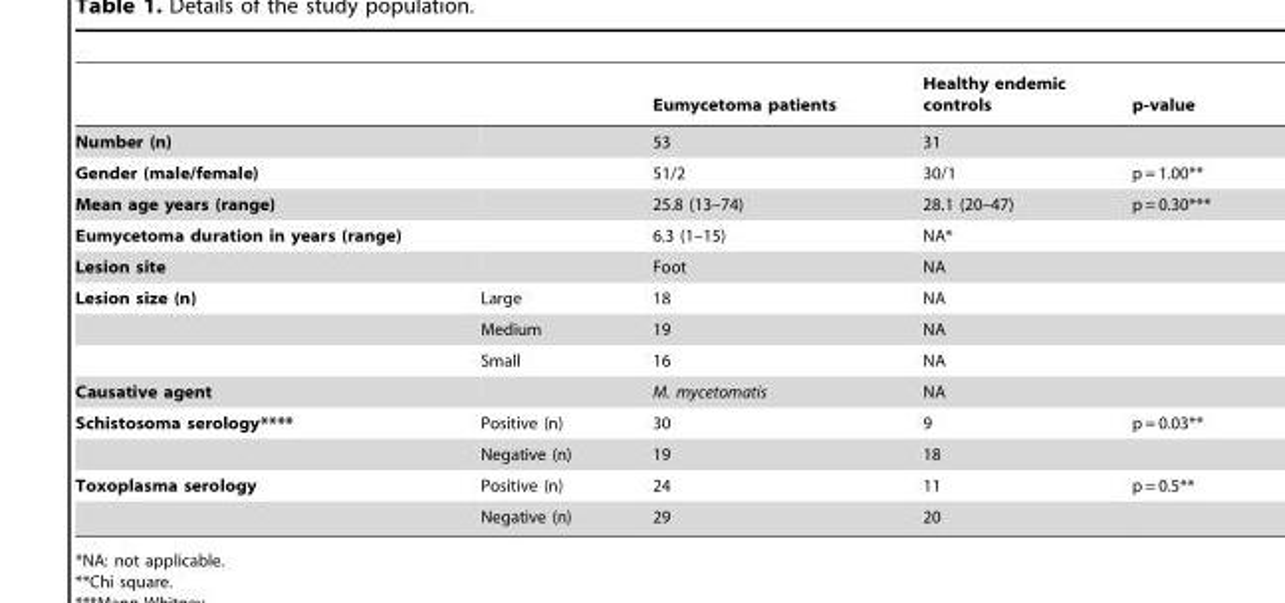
<table><thead><tr><td></td><td></td><td>Eumycetoma patients</td><td>Healthy endemic controls</td><td>p-value</td></tr></thead><tbody><tr><td>Number (n)</td><td></td><td>53</td><td>31</td><td></td></tr><tr><td>Gender (male/female)</td><td></td><td>51/2</td><td>30/1</td><td>p = 1.00**</td></tr><tr><td>Mean age years (range)</td><td></td><td>25.8 (13–74)</td><td>28.1 (20–47)</td><td>p = 0.30***</td></tr><tr><td>Eumycetoma duration in years (range)</td><td></td><td>6.3 (1–15)</td><td>NA*</td><td></td></tr><tr><td>Lesion site</td><td></td><td>Foot</td><td>NA</td><td></td></tr><tr><td rowspan="3">Lesion size (n)</td><td>Large</td><td>18</td><td>NA</td><td></td></tr><tr><td>Medium</td><td>19</td><td>NA</td><td></td></tr><tr><td>Small</td><td>16</td><td>NA</td><td></td></tr><tr><td>Causative agent</td><td></td><td>M. mycetomatis</td><td>NA</td><td></td></tr><tr><td rowspan="2">Schistosoma serology****</td><td>Positive (n)</td><td>30</td><td>9</td><td>p = 0.03**</td></tr><tr><td>Negative (n)</td><td>19</td><td>18</td><td></td></tr><tr><td rowspan="2">Toxoplasma serology</td><td>Positive (n)</td><td>24</td><td>11</td><td>p = 0.5**</td></tr><tr><td>Negative (n)</td><td>29</td><td>20</td><td></td></tr></tbody></table>